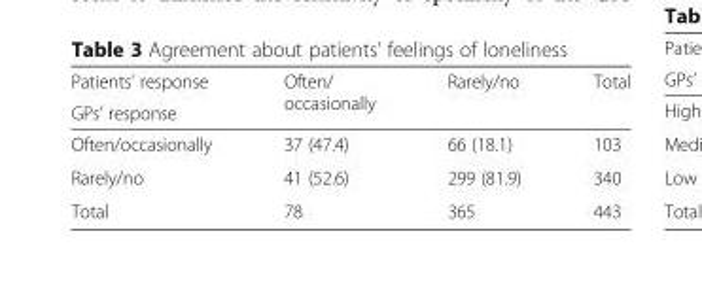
<table><thead><tr><td rowspan="2">Patients’ response GPs’ response</td><td rowspan="2">Often/ occasionally</td><td rowspan="2">Rarely/no</td><td rowspan="2">Total</td></tr><tr></tr></thead><tbody><tr><td>Often/occasionally</td><td>37 (47.4)</td><td>66 (18.1)</td><td>103</td></tr><tr><td>Rarely/no</td><td>41 (52.6)</td><td>299 (81.9)</td><td>340</td></tr><tr><td>Total</td><td>78</td><td>365</td><td>443</td></tr></tbody></table>